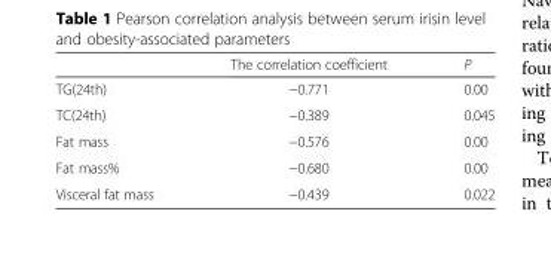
<table><thead><tr><td></td><td>The correlation coefficient</td><td>P</td></tr></thead><tbody><tr><td>TG(24th)</td><td>−0.771</td><td>0.00</td></tr><tr><td>TC(24th)</td><td>−0.389</td><td>0.045</td></tr><tr><td>Fat mass</td><td>−0.576</td><td>0.00</td></tr><tr><td>Fat mass%</td><td>−0.680</td><td>0.00</td></tr><tr><td>Visceral fat mass</td><td>−0.439</td><td>0.022</td></tr></tbody></table>